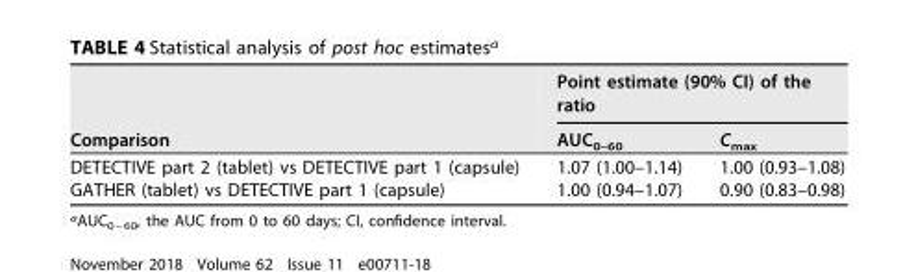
<table><thead><tr><td rowspan="2">Comparison</td><td colspan="2">Point estimate (90% CI) of the ratio</td></tr><tr><td>AUC<sub>0–60</sub></td><td>C<sub>max</sub></td></tr></thead><tbody><tr><td>DETECTIVE part 2 (tablet) vs DETECTIVE part 1 (capsule)</td><td>1.07 (1.00–1.14)</td><td>1.00 (0.93–1.08)</td></tr><tr><td>GATHER (tablet) vs DETECTIVE part 1 (capsule)</td><td>1.00 (0.94–1.07)</td><td>0.90 (0.83–0.98)</td></tr></tbody></table>